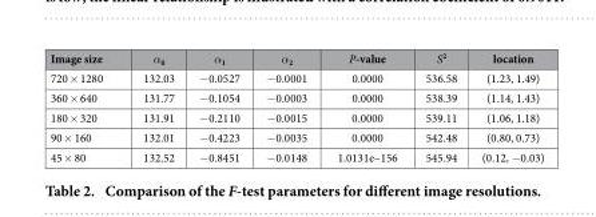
<table><thead><tr><td>Image size</td><td>α<sub>0</sub></td><td>α<sub>1</sub></td><td>α<sub>2</sub></td><td>P-value</td><td>S<sup>2</sup></td><td>location</td></tr></thead><tbody><tr><td>720 × 1280</td><td>132.03</td><td>− 0.0527</td><td>− 0.0001</td><td>0.0000</td><td>536.58</td><td>(1.23, 1.49)</td></tr><tr><td>360 × 640</td><td>131.77</td><td>− 0.1054</td><td>− 0.0003</td><td>0.0000</td><td>538.39</td><td>(1.14, 1.43)</td></tr><tr><td>180 × 320</td><td>131.91</td><td>− 0.2110</td><td>− 0.0015</td><td>0.0000</td><td>539.11</td><td>(1.06, 1.18)</td></tr><tr><td>90 × 160</td><td>132.01</td><td>− 0.4223</td><td>− 0.0035</td><td>0.0000</td><td>542.48</td><td>(0.80, 0.73)</td></tr><tr><td>45 × 80</td><td>132.52</td><td>− 0.8451</td><td>− 0.0148</td><td>1.0131e–156</td><td>545.94</td><td>(0.12, − 0.03)</td></tr></tbody></table>